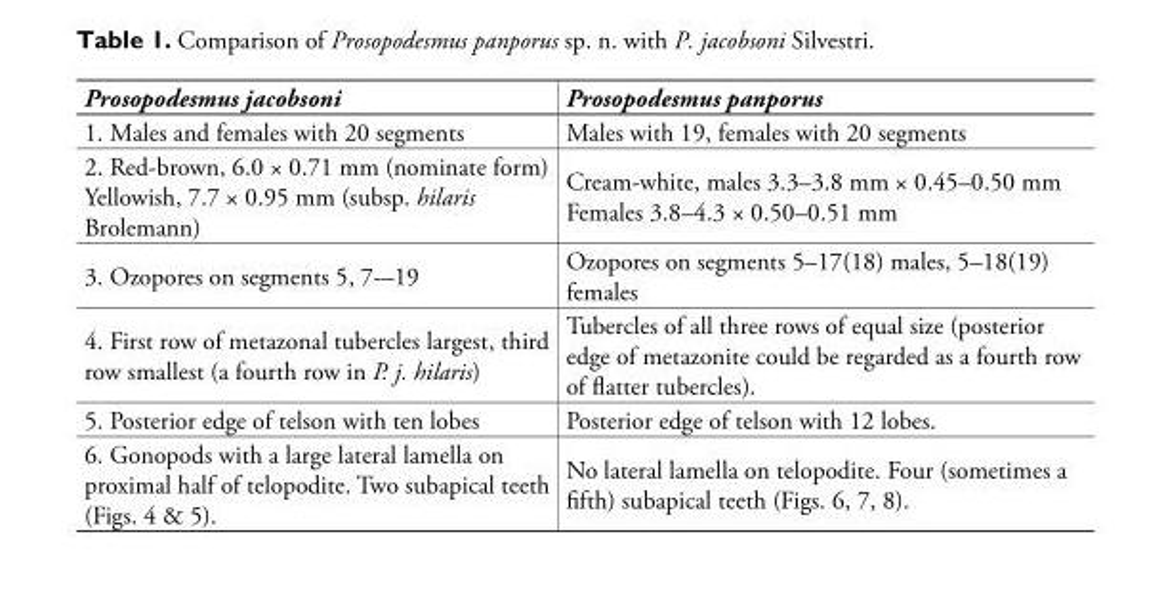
<table><thead><tr><td>Prosopodesmus jacobsoni</td><td>Prosopodesmus panporus</td></tr></thead><tbody><tr><td>1. Males and females with 20 segments</td><td>Males with 19, females with 20 segments</td></tr><tr><td>2. Red-brown, 6.0 × 0.71 mm (nominate form) Yellowish, 7.7 × 0.95 mm (subsp. hilaris Brolemann)</td><td>Cream-white, males 3.3–3.8 mm × 0.45–0.50 mm Females 3.8–4.3 × 0.50–0.51 mm</td></tr><tr><td>3. Ozopores on segments 5, 7-–19</td><td>Ozopores on segments 5–17(18) males, 5–18(19) females</td></tr><tr><td>4. First row of metazonal tubercles largest, third row smallest (a fourth row in P. j. hilaris)</td><td>Tubercles of all three rows of equal size (posterior edge of metazonite could be regarded as a fourth row of flatter tubercles).</td></tr><tr><td>5. Posterior edge of telson with ten lobes</td><td>Posterior edge of telson with 12 lobes.</td></tr><tr><td>6. Gonopods with a large lateral lamella on proximal half of telopodite. Two subapical teeth (Figs. 4 &amp; 5).</td><td>No lateral lamella on telopodite. Four (sometimes a fifth) subapical teeth (Figs. 6, 7, 8).</td></tr></tbody></table>